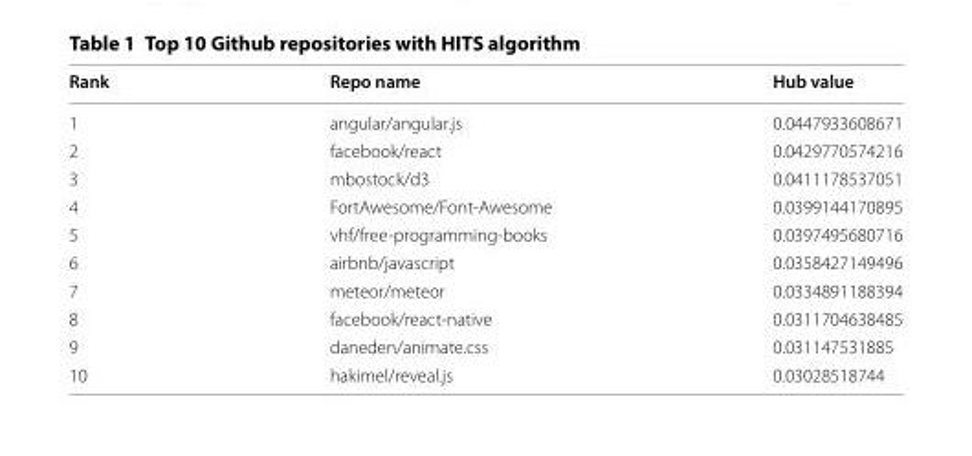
<table><thead><tr><td>Rank</td><td>Repo name</td><td>Hub value</td></tr></thead><tbody><tr><td>1</td><td>angular/angular.js</td><td>0.0447933608671</td></tr><tr><td>2</td><td>facebook/react</td><td>0.0429770574216</td></tr><tr><td>3</td><td>mbostock/d3</td><td>0.0411178537051</td></tr><tr><td>4</td><td>FortAwesome/Font-Awesome</td><td>0.0399144170895</td></tr><tr><td>5</td><td>vhf/free-programming-books</td><td>0.0397495680716</td></tr><tr><td>6</td><td>airbnb/javascript</td><td>0.0358427149496</td></tr><tr><td>7</td><td>meteor/meteor</td><td>0.0334891188394</td></tr><tr><td>8</td><td>facebook/react-native</td><td>0.0311704638485</td></tr><tr><td>9</td><td>daneden/animate.css</td><td>0.031147531885</td></tr><tr><td>10</td><td>hakimel/reveal.js</td><td>0.03028518744</td></tr></tbody></table>